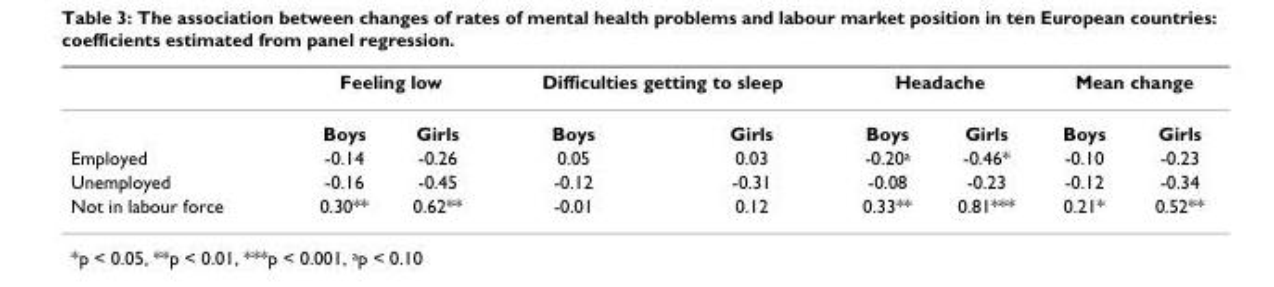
<table><thead><tr><td rowspan="2"></td><td colspan="2">Feeling low</td><td colspan="2">Difficulties getting to sleep</td><td colspan="2">Headache</td><td colspan="2">Mean change</td></tr><tr><td>Boys</td><td>Girls</td><td>Boys</td><td>Girls</td><td>Boys</td><td>Girls</td><td>Boys</td><td>Girls</td></tr></thead><tbody><tr><td>Employed</td><td>-0.14</td><td>-0.26</td><td>0.05</td><td>0.03</td><td>-0.20<sup>a</sup></td><td>-0.46*</td><td>-0.10</td><td>-0.23</td></tr><tr><td>Unemployed</td><td>-0.16</td><td>-0.45</td><td>-0.12</td><td>-0.31</td><td>-0.08</td><td>-0.23</td><td>-0.12</td><td>-0.34</td></tr><tr><td>Not in labour force</td><td>0.30**</td><td>0.62**</td><td>-0.01</td><td>0.12</td><td>0.33**</td><td>0.81***</td><td>0.21*</td><td>0.52**</td></tr></tbody></table>